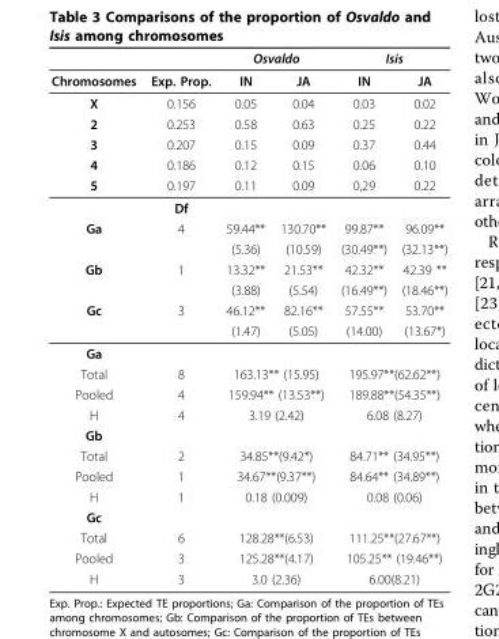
<table><thead><tr><td rowspan="2">Chromosomes</td><td rowspan="2">Exp. Prop.</td><td colspan="2">Osvaldo</td><td colspan="2">Isis</td></tr><tr><td>IN</td><td>JA</td><td>IN</td><td>JA</td></tr></thead><tbody><tr><td>X</td><td>0.156</td><td>0.05</td><td>0.04</td><td>0.03</td><td>0.02</td></tr><tr><td>2</td><td>0.253</td><td>0.58</td><td>0.63</td><td>0.25</td><td>0.22</td></tr><tr><td>3</td><td>0.207</td><td>0.15</td><td>0.09</td><td>0.37</td><td>0.44</td></tr><tr><td>4</td><td>0.186</td><td>0.12</td><td>0.15</td><td>0.06</td><td>0.10</td></tr><tr><td rowspan="2">5</td><td>0.197</td><td>0.11</td><td>0.09</td><td>0,29</td><td>0.22</td></tr><tr><td>Df</td><td></td><td></td><td></td><td></td></tr><tr><td rowspan="2">Ga</td><td>4</td><td>59.44**</td><td>130.70**</td><td>99.87**</td><td>96.09**</td></tr><tr><td></td><td>(5.36)</td><td>(10.59)</td><td>(30.49**)</td><td>(32.13**)</td></tr><tr><td rowspan="2">Gb</td><td>1</td><td>13.32**</td><td>21.53**</td><td>42.32**</td><td>42.39 **</td></tr><tr><td></td><td>(3.88)</td><td>(5.54)</td><td>(16.49**)</td><td>(18.46**)</td></tr><tr><td rowspan="2">Gc</td><td>3</td><td>46.12**</td><td>82.16**</td><td>57.55**</td><td>53.70**</td></tr><tr><td></td><td>(1.47)</td><td>(5.05)</td><td>(14.00)</td><td>(13.67*)</td></tr><tr><td colspan="6">Ga</td></tr><tr><td>Total</td><td>8</td><td colspan="2">163.13** (15.95)</td><td colspan="2">195.97**(62.62**)</td></tr><tr><td>Pooled</td><td>4</td><td colspan="2">159.94** (13.53**)</td><td colspan="2">189.88**(54.35**)</td></tr><tr><td>H</td><td>4</td><td colspan="2">3.19 (2.42)</td><td colspan="2">6.08 (8.27)</td></tr><tr><td colspan="6">Gb</td></tr><tr><td>Total</td><td>2</td><td colspan="2">34.85**(9.42*)</td><td colspan="2">84.71** (34.95**)</td></tr><tr><td>Pooled</td><td>1</td><td colspan="2">34.67**(9.37**)</td><td colspan="2">84.64** (34.89**)</td></tr><tr><td>H</td><td>1</td><td colspan="2">0.18 (0.009)</td><td colspan="2">0.08 (0.06)</td></tr><tr><td colspan="6">Gc</td></tr><tr><td>Total</td><td>6</td><td colspan="2">128.28**(6.53)</td><td colspan="2">111.25**(27.67**)</td></tr><tr><td>Pooled</td><td>3</td><td colspan="2">125.28**(4.17)</td><td colspan="2">105.25** (19.46**)</td></tr><tr><td>H</td><td>3</td><td colspan="2">3.0 (2.36)</td><td colspan="2">6.00(8.21)</td></tr></tbody></table>